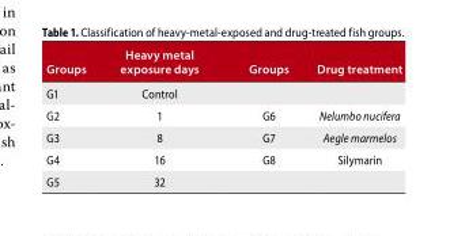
<table><thead><tr><td>Groups</td><td>heavy metal exposure days</td><td>Groups</td><td>drug treatment</td></tr></thead><tbody><tr><td>G1</td><td>Control</td><td></td><td></td></tr><tr><td>G2</td><td>1</td><td>G6</td><td>Nelumbo nucifera</td></tr><tr><td>G3</td><td>8</td><td>G7</td><td>Aegle marmelos</td></tr><tr><td>G4</td><td>16</td><td>G8</td><td>Silymarin</td></tr><tr><td>G5</td><td>32</td><td></td><td></td></tr></tbody></table>